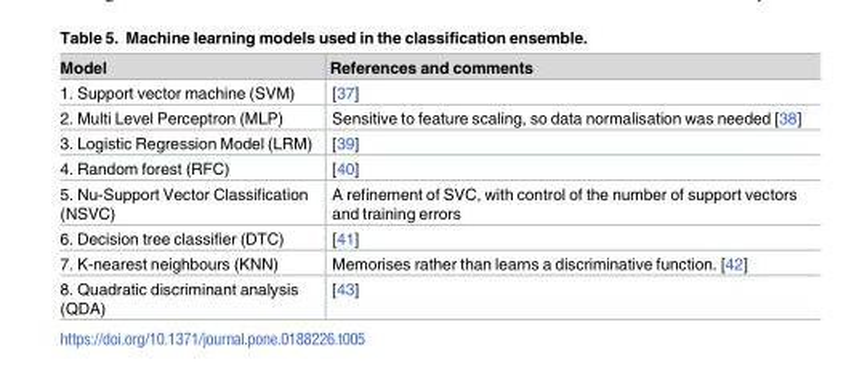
<table><thead><tr><td>Model</td><td>References and comments</td></tr></thead><tbody><tr><td>1. Support vector machine (SVM)</td><td>[37]</td></tr><tr><td>2. Multi Level Perceptron (MLP)</td><td>Sensitive to feature scaling, so data normalisation was needed [38]</td></tr><tr><td>3. Logistic Regression Model (LRM)</td><td>[39]</td></tr><tr><td>4. Random forest (RFC)</td><td>[40]</td></tr><tr><td>5. Nu-Support Vector Classification (NSVC)</td><td>A refinement of SVC, with control of the number of support vectors and training errors</td></tr><tr><td>6. Decision tree classifier (DTC)</td><td>[41]</td></tr><tr><td>7. K-nearest neighbours (KNN)</td><td>Memorises rather than learns a discriminative function. [42]</td></tr><tr><td>8. Quadratic discriminant analysis (QDA)</td><td>[43]</td></tr></tbody></table>